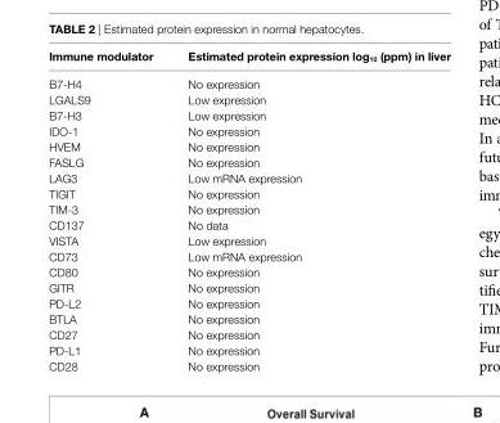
<table><thead><tr><td>immune modulator</td><td>estimated protein expression log<sub>10</sub> (ppm) in liver</td></tr></thead><tbody><tr><td>B7-H4</td><td>No expression</td></tr><tr><td>LGALS9</td><td>Low expression</td></tr><tr><td>B7-H3</td><td>Low expression</td></tr><tr><td>IDO-1</td><td>No expression</td></tr><tr><td>HVEM</td><td>No expression</td></tr><tr><td>FASLG</td><td>No expression</td></tr><tr><td>LAG3</td><td>Low mRNA expression</td></tr><tr><td>TIGIT</td><td>No expression</td></tr><tr><td>TIM-3</td><td>No expression</td></tr><tr><td>CD137</td><td>No data</td></tr><tr><td>VISTA</td><td>Low expression</td></tr><tr><td>CD73</td><td>Low mRNA expression</td></tr><tr><td>CD80</td><td>No expression</td></tr><tr><td>GITR</td><td>No expression</td></tr><tr><td>PD-L2</td><td>No expression</td></tr><tr><td>BTLA</td><td>No expression</td></tr><tr><td>CD27</td><td>No expression</td></tr><tr><td>PD-L1</td><td>No expression</td></tr><tr><td>CD28</td><td>No expression</td></tr></tbody></table>